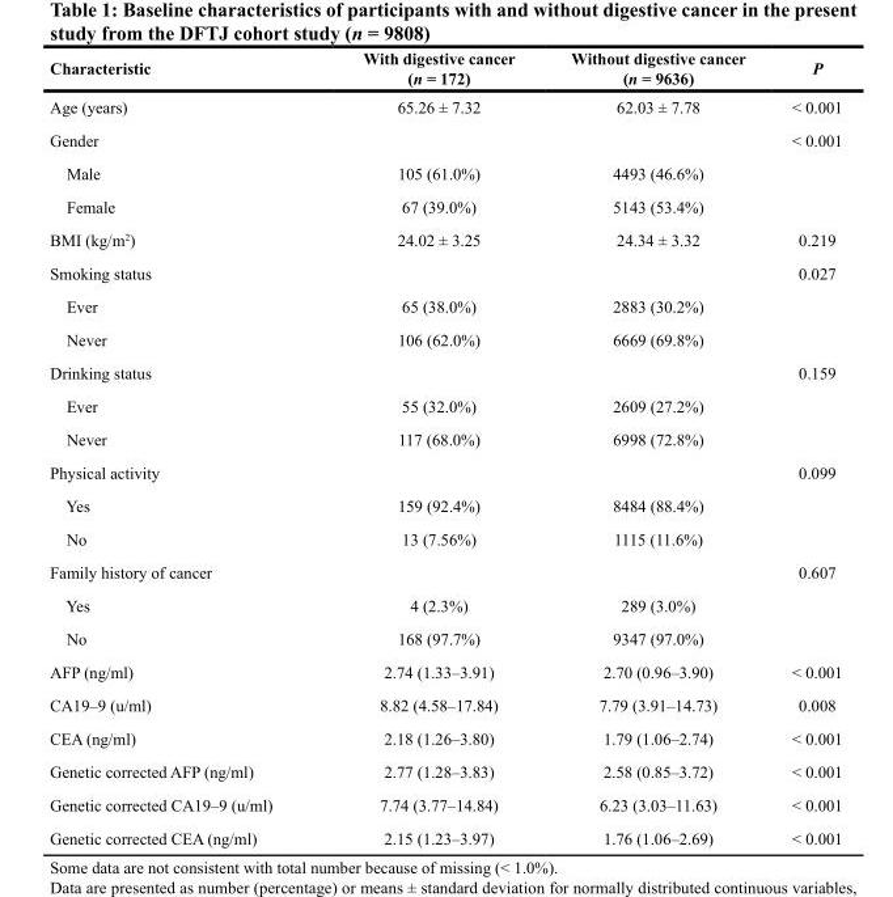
<table><thead><tr><td>Characteristic</td><td>With digestive cancer (n = 172)</td><td>Without digestive cancer (n = 9636)</td><td>P</td></tr></thead><tbody><tr><td>Age (years)</td><td>65.26 ± 7.32</td><td>62.03 ± 7.78</td><td>&lt; 0.001</td></tr><tr><td>Gender</td><td></td><td></td><td>&lt; 0.001</td></tr><tr><td>Male</td><td>105 (61.0%)</td><td>4493 (46.6%)</td><td></td></tr><tr><td>Female</td><td>67 (39.0%)</td><td>5143 (53.4%)</td><td></td></tr><tr><td>BMI (kg/m<sup>2</sup>)</td><td>24.02 ± 3.25</td><td>24.34 ± 3.32</td><td>0.219</td></tr><tr><td>Smoking status</td><td></td><td></td><td>0.027</td></tr><tr><td>Ever</td><td>65 (38.0%)</td><td>2883 (30.2%)</td><td></td></tr><tr><td>Never</td><td>106 (62.0%)</td><td>6669 (69.8%)</td><td></td></tr><tr><td>Drinking status</td><td></td><td></td><td>0.159</td></tr><tr><td>Ever</td><td>55 (32.0%)</td><td>2609 (27.2%)</td><td></td></tr><tr><td>Never</td><td>117 (68.0%)</td><td>6998 (72.8%)</td><td></td></tr><tr><td>Physical activity</td><td></td><td></td><td>0.099</td></tr><tr><td>Yes</td><td>159 (92.4%)</td><td>8484 (88.4%)</td><td></td></tr><tr><td>No</td><td>13 (7.56%)</td><td>1115 (11.6%)</td><td></td></tr><tr><td>Family history of cancer</td><td></td><td></td><td>0.607</td></tr><tr><td>Yes</td><td>4 (2.3%)</td><td>289 (3.0%)</td><td></td></tr><tr><td>No</td><td>168 (97.7%)</td><td>9347 (97.0%)</td><td></td></tr><tr><td>AFP (ng/ml)</td><td>2.74 (1.33–3.91)</td><td>2.70 (0.96–3.90)</td><td>&lt; 0.001</td></tr><tr><td>CA19–9 (u/ml)</td><td>8.82 (4.58–17.84)</td><td>7.79 (3.91–14.73)</td><td>0.008</td></tr><tr><td>CEA (ng/ml)</td><td>2.18 (1.26–3.80)</td><td>1.79 (1.06–2.74)</td><td>&lt; 0.001</td></tr><tr><td>Genetic corrected AFP (ng/ml)</td><td>2.77 (1.28–3.83)</td><td>2.58 (0.85–3.72)</td><td>&lt; 0.001</td></tr><tr><td>Genetic corrected CA19–9 (u/ml)</td><td>7.74 (3.77–14.84)</td><td>6.23 (3.03–11.63)</td><td>&lt; 0.001</td></tr><tr><td>Genetic corrected CEA (ng/ml)</td><td>2.15 (1.23–3.97)</td><td>1.76 (1.06–2.69)</td><td>&lt; 0.001</td></tr></tbody></table>